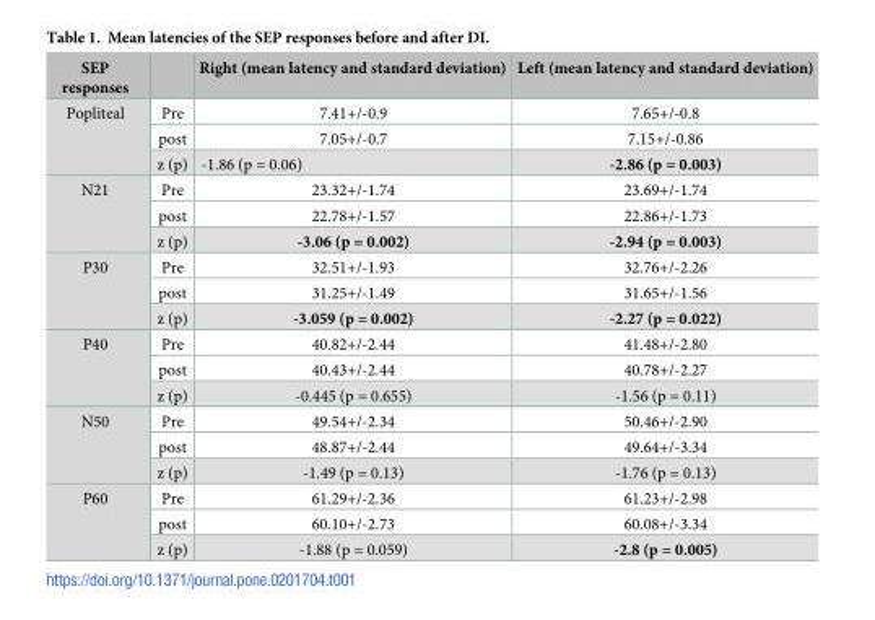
<table><thead><tr><td>SEP responses</td><td></td><td>Right (mean latency and standard deviation)</td><td>Left (mean latency and standard deviation)</td></tr></thead><tbody><tr><td rowspan="3">Popliteal</td><td>Pre</td><td>7.41+/-0.9</td><td>7.65+/-0.8</td></tr><tr><td>post</td><td>7.05+/-0.7</td><td>7.15+/-0.86</td></tr><tr><td>z (p)</td><td>-1.86 (p = 0.06)</td><td>-2.86 (p = 0.003)</td></tr><tr><td rowspan="3">N21</td><td>Pre</td><td>23.32+/-1.74</td><td>23.69+/-1.74</td></tr><tr><td>post</td><td>22.78+/-1.57</td><td>22.86+/-1.73</td></tr><tr><td>z (p)</td><td>-3.06 (p = 0.002)</td><td>-2.94 (p = 0.003)</td></tr><tr><td rowspan="3">P30</td><td>Pre</td><td>32.51+/-1.93</td><td>32.76+/-2.26</td></tr><tr><td>post</td><td>31.25+/-1.49</td><td>31.65+/-1.56</td></tr><tr><td>z (p)</td><td>-3.059 (p = 0.002)</td><td>-2.27 (p = 0.022)</td></tr><tr><td rowspan="3">P40</td><td>Pre</td><td>40.82+/-2.44</td><td>41.48+/-2.80</td></tr><tr><td>post</td><td>40.43+/-2.44</td><td>40.78+/-2.27</td></tr><tr><td>z (p)</td><td>-0.445 (p = 0.655)</td><td>-1.56 (p = 0.11)</td></tr><tr><td rowspan="3">N50</td><td>Pre</td><td>49.54+/-2.34</td><td>50.46+/-2.90</td></tr><tr><td>post</td><td>48.87+/-2.44</td><td>49.64+/-3.34</td></tr><tr><td>z (p)</td><td>-1.49 (p = 0.13)</td><td>-1.76 (p = 0.13)</td></tr><tr><td rowspan="3">P60</td><td>Pre</td><td>61.29+/-2.36</td><td>61.23+/-2.98</td></tr><tr><td>post</td><td>60.10+/-2.73</td><td>60.08+/-3.34</td></tr><tr><td>z (p)</td><td>-1.88 (p = 0.059)</td><td>-2.8 (p = 0.005)</td></tr></tbody></table>